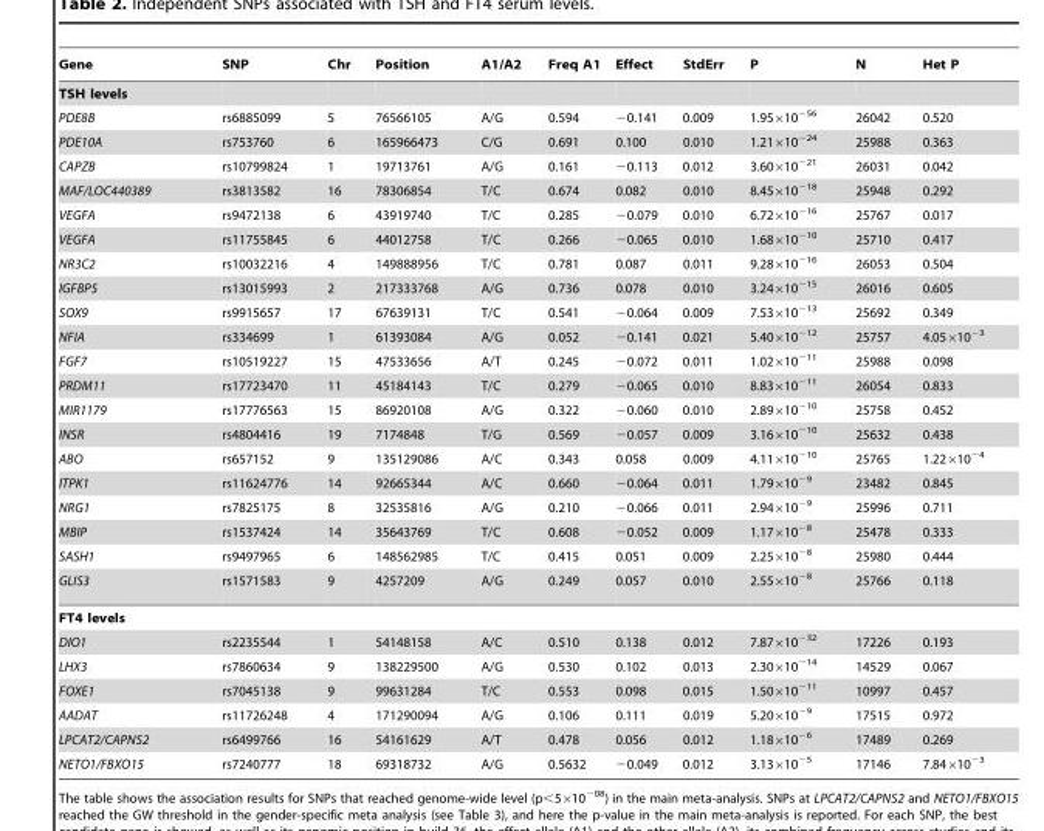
<table><thead><tr><td>Gene</td><td>SNP</td><td>Chr</td><td>Position</td><td>A1/A2</td><td>Freq A1</td><td>Effect</td><td>StdErr</td><td>P</td><td>N</td><td>Het P</td></tr></thead><tbody><tr><td colspan="11">TSH levels</td></tr><tr><td>PDE8B</td><td>rs6885099</td><td>5</td><td>76566105</td><td>A/G</td><td>0.594</td><td>−0.141</td><td>0.009</td><td>1.95×10<sup>−56</sup></td><td>26042</td><td>0.520</td></tr><tr><td>PDE10A</td><td>rs753760</td><td>6</td><td>165966473</td><td>C/G</td><td>0.691</td><td>0.100</td><td>0.010</td><td>1.21×10<sup>−24</sup></td><td>25988</td><td>0.363</td></tr><tr><td>CAPZB</td><td>rs10799824</td><td>1</td><td>19713761</td><td>A/G</td><td>0.161</td><td>−0.113</td><td>0.012</td><td>3.60×10<sup>−21</sup></td><td>26031</td><td>0.042</td></tr><tr><td>MAF/LOC440389</td><td>rs3813582</td><td>16</td><td>78306854</td><td>T/C</td><td>0.674</td><td>0.082</td><td>0.010</td><td>8.45×10<sup>−18</sup></td><td>25948</td><td>0.292</td></tr><tr><td>VEGFA</td><td>rs9472138</td><td>6</td><td>43919740</td><td>T/C</td><td>0.285</td><td>−0.079</td><td>0.010</td><td>6.72×10<sup>−16</sup></td><td>25767</td><td>0.017</td></tr><tr><td>VEGFA</td><td>rs11755845</td><td>6</td><td>44012758</td><td>T/C</td><td>0.266</td><td>−0.065</td><td>0.010</td><td>1.68×10<sup>−10</sup></td><td>25710</td><td>0.417</td></tr><tr><td>NR3C2</td><td>rs10032216</td><td>4</td><td>149888956</td><td>T/C</td><td>0.781</td><td>0.087</td><td>0.011</td><td>9.28×10<sup>−16</sup></td><td>26053</td><td>0.504</td></tr><tr><td>IGFBP5</td><td>rs13015993</td><td>2</td><td>217333768</td><td>A/G</td><td>0.736</td><td>0.078</td><td>0.010</td><td>3.24×10<sup>−15</sup></td><td>26016</td><td>0.605</td></tr><tr><td>SOX9</td><td>rs9915657</td><td>17</td><td>67639131</td><td>T/C</td><td>0.541</td><td>−0.064</td><td>0.009</td><td>7.53×10<sup>−13</sup></td><td>25692</td><td>0.349</td></tr><tr><td>NFIA</td><td>rs334699</td><td>1</td><td>61393084</td><td>A/G</td><td>0.052</td><td>−0.141</td><td>0.021</td><td>5.40×10<sup>−12</sup></td><td>25757</td><td>4.05×10<sup>−3</sup></td></tr><tr><td>FGF7</td><td>rs10519227</td><td>15</td><td>47533656</td><td>A/T</td><td>0.245</td><td>−0.072</td><td>0.011</td><td>1.02×10<sup>−11</sup></td><td>25988</td><td>0.098</td></tr><tr><td>PRDM11</td><td>rs17723470</td><td>11</td><td>45184143</td><td>T/C</td><td>0.279</td><td>−0.065</td><td>0.010</td><td>8.83×10<sup>−11</sup></td><td>26054</td><td>0.833</td></tr><tr><td>MIR1179</td><td>rs17776563</td><td>15</td><td>86920108</td><td>A/G</td><td>0.322</td><td>−0.060</td><td>0.010</td><td>2.89×10<sup>−10</sup></td><td>25758</td><td>0.452</td></tr><tr><td>INSR</td><td>rs4804416</td><td>19</td><td>7174848</td><td>T/G</td><td>0.569</td><td>−0.057</td><td>0.009</td><td>3.16×10<sup>−10</sup></td><td>25632</td><td>0.438</td></tr><tr><td>ABO</td><td>rs657152</td><td>9</td><td>135129086</td><td>A/C</td><td>0.343</td><td>0.058</td><td>0.009</td><td>4.11×10<sup>−10</sup></td><td>25765</td><td>1.22×10<sup>−4</sup></td></tr><tr><td>ITPK1</td><td>rs11624776</td><td>14</td><td>92665344</td><td>A/C</td><td>0.660</td><td>−0.064</td><td>0.011</td><td>1.79×10<sup>−9</sup></td><td>23482</td><td>0.845</td></tr><tr><td>NRG1</td><td>rs7825175</td><td>8</td><td>32535816</td><td>A/G</td><td>0.210</td><td>−0.066</td><td>0.011</td><td>2.94×10<sup>−9</sup></td><td>25996</td><td>0.711</td></tr><tr><td>MBIP</td><td>rs1537424</td><td>14</td><td>35643769</td><td>T/C</td><td>0.608</td><td>−0.052</td><td>0.009</td><td>1.17×10<sup>−8</sup></td><td>25478</td><td>0.333</td></tr><tr><td>SASH1</td><td>rs9497965</td><td>6</td><td>148562985</td><td>T/C</td><td>0.415</td><td>0.051</td><td>0.009</td><td>2.25×10<sup>−8</sup></td><td>25980</td><td>0.444</td></tr><tr><td>GLIS3</td><td>rs1571583</td><td>9</td><td>4257209</td><td>A/G</td><td>0.249</td><td>0.057</td><td>0.010</td><td>2.55×10<sup>−8</sup></td><td>25766</td><td>0.118</td></tr><tr><td colspan="11">FT4 levels</td></tr><tr><td>DIO1</td><td>rs2235544</td><td>1</td><td>54148158</td><td>A/C</td><td>0.510</td><td>0.138</td><td>0.012</td><td>7.87×10<sup>−32</sup></td><td>17226</td><td>0.193</td></tr><tr><td>LHX3</td><td>rs7860634</td><td>9</td><td>138229500</td><td>A/G</td><td>0.530</td><td>0.102</td><td>0.013</td><td>2.30×10<sup>−14</sup></td><td>14529</td><td>0.067</td></tr><tr><td>FOXE1</td><td>rs7045138</td><td>9</td><td>99631284</td><td>T/C</td><td>0.553</td><td>0.098</td><td>0.015</td><td>1.50×10<sup>−11</sup></td><td>10997</td><td>0.457</td></tr><tr><td>AADAT</td><td>rs11726248</td><td>4</td><td>171290094</td><td>A/G</td><td>0.106</td><td>0.111</td><td>0.019</td><td>5.20×10<sup>−9</sup></td><td>17515</td><td>0.972</td></tr><tr><td>LPCAT2/CAPNS2</td><td>rs6499766</td><td>16</td><td>54161629</td><td>A/T</td><td>0.478</td><td>0.056</td><td>0.012</td><td>1.18×10<sup>−6</sup></td><td>17489</td><td>0.269</td></tr><tr><td>NETO1/FBXO15</td><td>rs7240777</td><td>18</td><td>69318732</td><td>A/G</td><td>0.5632</td><td>−0.049</td><td>0.012</td><td>3.13×10<sup>−5</sup></td><td>17146</td><td>7.84×10<sup>−3</sup></td></tr></tbody></table>